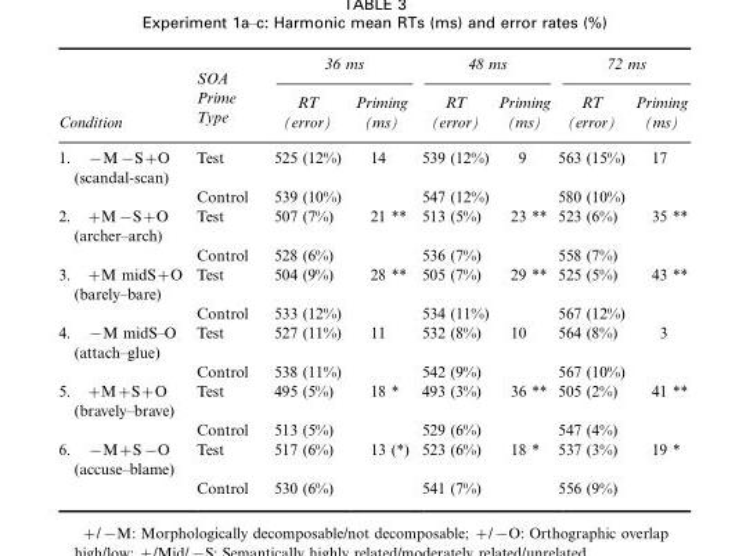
<table><thead><tr><td rowspan="2">Condition</td><td rowspan="2">SOA Prime Type</td><td colspan="2">36 ms</td><td colspan="2">48 ms</td><td colspan="2">72 ms</td></tr><tr><td>RT (error)</td><td>Priming (ms)</td><td>RT (error)</td><td>Priming (ms)</td><td>RT (error)</td><td>Priming (ms)</td></tr></thead><tbody><tr><td rowspan="2">1. −M−S+O (scandal-scan)</td><td>Test</td><td>525 (12%)</td><td>14</td><td>539 (12%)</td><td>9</td><td>563 (15%)</td><td>17</td></tr><tr><td>Control</td><td>539 (10%)</td><td></td><td>547 (12%)</td><td></td><td>580 (10%)</td><td></td></tr><tr><td rowspan="2">2. −M−S+O (archer-arch)</td><td>Test</td><td>507 (7%)</td><td>21 **</td><td>513 (5%)</td><td>23 **</td><td>523 (6%)</td><td>35 **</td></tr><tr><td>Control</td><td>528 (6%)</td><td></td><td>536 (7%)</td><td></td><td>558 (7%)</td><td></td></tr><tr><td rowspan="2">3. −M midS+O (barely-bare)</td><td>Test</td><td>504 (9%)</td><td>28 **</td><td>505 (7%)</td><td>29 **</td><td>525 (5%)</td><td>43 **</td></tr><tr><td>Control</td><td>533 (12%)</td><td></td><td>534 (11%)</td><td></td><td>567 (12%)</td><td></td></tr><tr><td rowspan="2">4. −M midS−O (attach-glue)</td><td>Test</td><td>527 (11%)</td><td>11</td><td>532 (8%)</td><td>10</td><td>564 (8%)</td><td>3</td></tr><tr><td>Control</td><td>538 (11%)</td><td></td><td>542 (9%)</td><td></td><td>567 (10%)</td><td></td></tr><tr><td rowspan="2">5. +M+S+O (bravely-brave)</td><td>Test</td><td>495 (5%)</td><td>18 *</td><td>493 (3%)</td><td>36 **</td><td>505 (2%)</td><td>41 **</td></tr><tr><td>Control</td><td>513 (5%)</td><td></td><td>529 (6%)</td><td></td><td>547 (4%)</td><td></td></tr><tr><td rowspan="2">6. �M�S�O (accuse�blame)</td><td>Test</td><td>517 (6%)</td><td>13 (*)</td><td>523 (6%)</td><td>18 *</td><td>537 (3%)</td><td>19 *</td></tr><tr><td>Control</td><td>530 (6%)</td><td></td><td>541 (7%)</td><td></td><td>556 (9%)</td><td></td></tr></tbody></table>